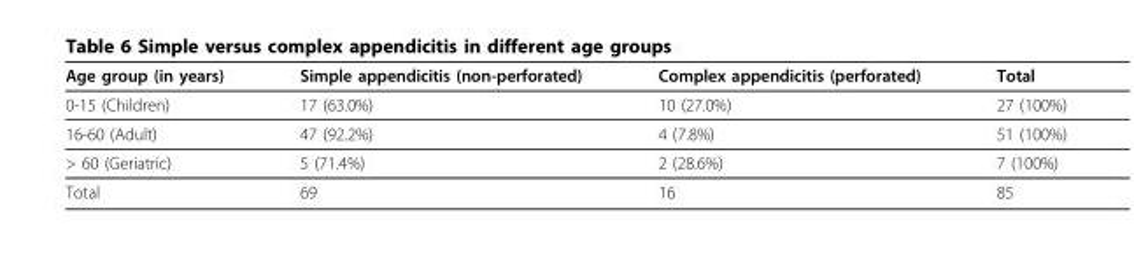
<table><thead><tr><td>Age group (in years)</td><td>Simple appendicitis (non-perforated)</td><td>Complex appendicitis (perforated)</td><td>Total</td></tr></thead><tbody><tr><td>0-15 (Children)</td><td>17 (63.0%)</td><td>10 (27.0%)</td><td>27 (100%)</td></tr><tr><td>16-60 (Adult)</td><td>47 (92.2%)</td><td>4 (7.8%)</td><td>51 (100%)</td></tr><tr><td>&gt; 60 (Geriatric)</td><td>5 (71.4%)</td><td>2 (28.6%)</td><td>7 (100%)</td></tr><tr><td>Total</td><td>69</td><td>16</td><td>85</td></tr></tbody></table>